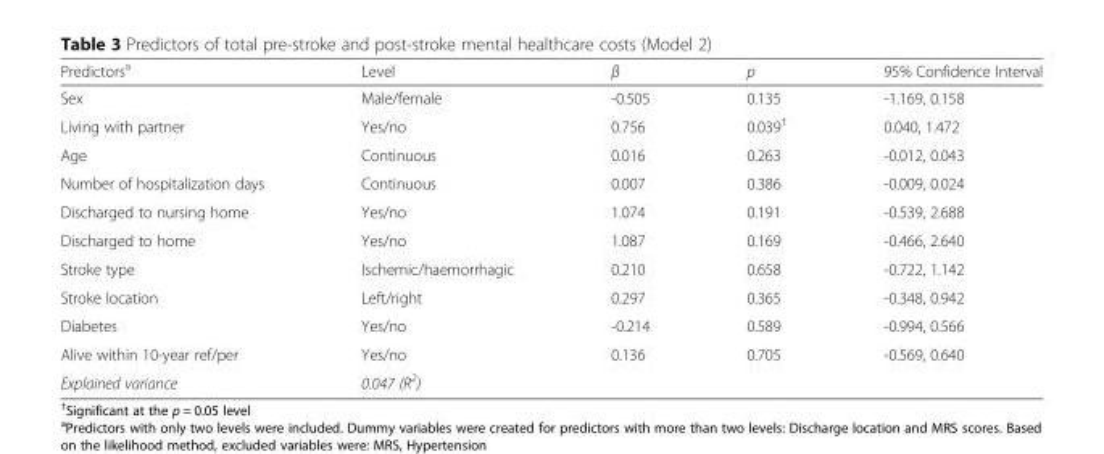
<table><thead><tr><td>Predictors<sup>a</sup></td><td>Level</td><td>β</td><td>p</td><td>95% Confidence Interval</td></tr></thead><tbody><tr><td>Sex</td><td>Male/female</td><td>-0.505</td><td>0.135</td><td>-1.169, 0.158</td></tr><tr><td>Living with partner</td><td>Yes/no</td><td>0.756</td><td>0.039<sup>†</sup></td><td>0.040, 1.472</td></tr><tr><td>Age</td><td>Continuous</td><td>0.016</td><td>0.263</td><td>-0.012, 0.043</td></tr><tr><td>Number of hospitalization days</td><td>Continuous</td><td>0.007</td><td>0.386</td><td>-0.009, 0.024</td></tr><tr><td>Discharged to nursing home</td><td>Yes/no</td><td>1.074</td><td>0.191</td><td>-0.539, 2.688</td></tr><tr><td>Discharged to home</td><td>Yes/no</td><td>1.087</td><td>0.169</td><td>-0.466, 2.640</td></tr><tr><td>Stroke type</td><td>Ischemic/haemorrhagic</td><td>0.210</td><td>0.658</td><td>-0.722, 1.142</td></tr><tr><td>Stroke location</td><td>Left/right</td><td>0.297</td><td>0.365</td><td>-0.348, 0.942</td></tr><tr><td>Diabetes</td><td>Yes/no</td><td>-0.214</td><td>0.589</td><td>-0.994, 0.566</td></tr><tr><td>Alive within 10-year ref/per</td><td>Yes/no</td><td>0.136</td><td>0.705</td><td>-0.569, 0.640</td></tr><tr><td>Explained variance</td><td>0.047 (R<sup>2</sup>)</td><td></td><td></td><td></td></tr></tbody></table>